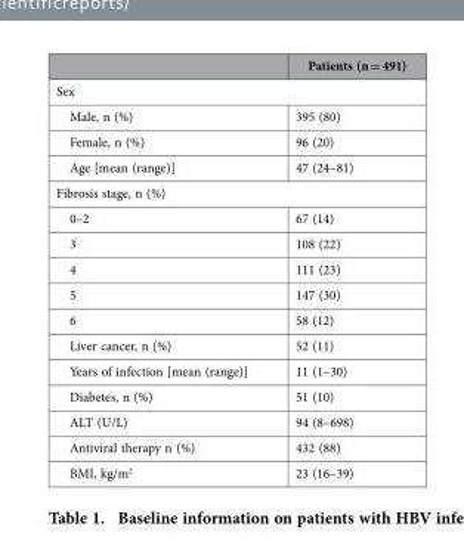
<table><thead><tr><td></td><td>Patients (n = 491)</td></tr></thead><tbody><tr><td colspan="2">Sex</td></tr><tr><td>Male, n (%)</td><td>395 (80)</td></tr><tr><td>Female, n (%)</td><td>96 (20)</td></tr><tr><td>Age [mean (range)]</td><td>47 (24–81)</td></tr><tr><td colspan="2">Fibrosis stage, n (%)</td></tr><tr><td>0–2</td><td>67 (14)</td></tr><tr><td>3</td><td>108 (22)</td></tr><tr><td>4</td><td>111 (23)</td></tr><tr><td>5</td><td>147 (30)</td></tr><tr><td>6</td><td>58 (12)</td></tr><tr><td>Liver cancer, n (%)</td><td>52 (11)</td></tr><tr><td>Years of infection [mean (range)]</td><td>11 (1–30)</td></tr><tr><td>Diabetes, n (%)</td><td>51 (10)</td></tr><tr><td>ALT (U/L)</td><td>94 (8–698)</td></tr><tr><td>Antiviral therapy n (%)</td><td>432 (88)</td></tr><tr><td>BMI, kg/m<sup>2</sup></td><td>23 (16–39)</td></tr></tbody></table>